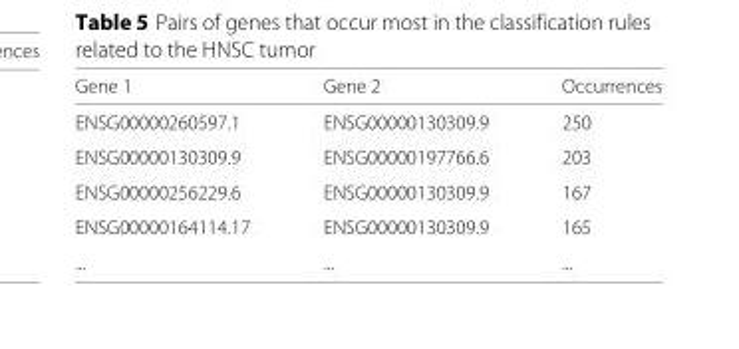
<table><thead><tr><td>Gene 1</td><td>Gene 2</td><td>Occurrences</td></tr></thead><tbody><tr><td>ENSG00000260597.1</td><td>ENSG00000130309.9</td><td>250</td></tr><tr><td>ENSG00000130309.9</td><td>ENSG00000197766.6</td><td>203</td></tr><tr><td>ENSG00000256229.6</td><td>ENSG00000130309.9</td><td>167</td></tr><tr><td>ENSG00000164114.17</td><td>ENSG00000130309.9</td><td>165</td></tr><tr><td>...</td><td>...</td><td>...</td></tr></tbody></table>